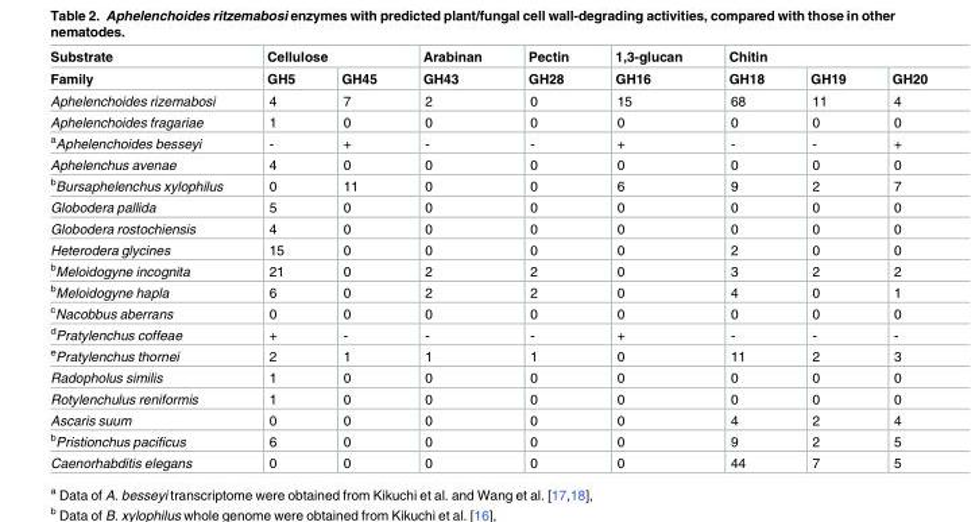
<table><thead><tr><td rowspan="2">Substrate Family</td><td colspan="2">Cellulose</td><td rowspan="2">Arabinan GH43</td><td rowspan="2">Pectin GH28</td><td rowspan="2">1,3-glucan GH16</td><td colspan="3">Chitin</td></tr><tr><td>GH5</td><td>GH45</td><td>GH18</td><td>GH19</td><td>GH20</td></tr></thead><tbody><tr><td>Aphelenchoides rizemabosi</td><td>4</td><td>7</td><td>2</td><td>0</td><td>15</td><td>68</td><td>11</td><td>4</td></tr><tr><td>Aphelenchoides fragariae</td><td>1</td><td>0</td><td>0</td><td>0</td><td>0</td><td>0</td><td>0</td><td>0</td></tr><tr><td><sup>a</sup>Aphelenchoides besseyi</td><td>-</td><td>+</td><td>-</td><td>-</td><td>+</td><td>-</td><td>-</td><td>+</td></tr><tr><td>Aphelenchus avenae</td><td>4</td><td>0</td><td>0</td><td>0</td><td>0</td><td>0</td><td>0</td><td>0</td></tr><tr><td><sup>b</sup>Bursaphelenchus xylophilus</td><td>0</td><td>11</td><td>0</td><td>0</td><td>6</td><td>9</td><td>2</td><td>7</td></tr><tr><td>Globodera pallida</td><td>5</td><td>0</td><td>0</td><td>0</td><td>0</td><td>0</td><td>0</td><td>0</td></tr><tr><td>Globodera rostochiensis</td><td>4</td><td>0</td><td>0</td><td>0</td><td>0</td><td>0</td><td>0</td><td>0</td></tr><tr><td>Heterodera glycines</td><td>15</td><td>0</td><td>0</td><td>0</td><td>0</td><td>2</td><td>0</td><td>0</td></tr><tr><td><sup>b</sup>Meloidogyne incognita</td><td>21</td><td>0</td><td>2</td><td>2</td><td>0</td><td>3</td><td>2</td><td>2</td></tr><tr><td><sup>b</sup>Meloidogyne hapla</td><td>6</td><td>0</td><td>2</td><td>2</td><td>0</td><td>4</td><td>0</td><td>1</td></tr><tr><td><sup>c</sup>Nacobbus aberrans</td><td>0</td><td>0</td><td>0</td><td>0</td><td>0</td><td>0</td><td>0</td><td>0</td></tr><tr><td><sup>d</sup>Pratylenchus coffeae</td><td>+</td><td>-</td><td>-</td><td>-</td><td>+</td><td>-</td><td>-</td><td>-</td></tr><tr><td><sup>e</sup>Pratylenchus thornei</td><td>2</td><td>1</td><td>1</td><td>1</td><td>0</td><td>11</td><td>2</td><td>3</td></tr><tr><td>Radopholus similis</td><td>1</td><td>0</td><td>0</td><td>0</td><td>0</td><td>0</td><td>0</td><td>0</td></tr><tr><td>Rotylenchulus reniformis</td><td>1</td><td>0</td><td>0</td><td>0</td><td>0</td><td>0</td><td>0</td><td>0</td></tr><tr><td>Ascaris suum</td><td>0</td><td>0</td><td>0</td><td>0</td><td>0</td><td>4</td><td>2</td><td>4</td></tr><tr><td><sup>b</sup>Pristionchus pacificus</td><td>6</td><td>0</td><td>0</td><td>0</td><td>0</td><td>9</td><td>2</td><td>5</td></tr><tr><td>Caenorhabditis elegans</td><td>0</td><td>0</td><td>0</td><td>0</td><td>0</td><td>44</td><td>7</td><td>5</td></tr></tbody></table>